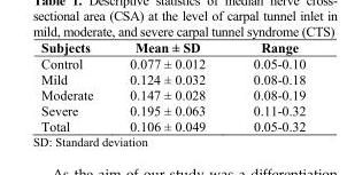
<table><thead><tr><td>Subjects</td><td>Mean ± SD</td><td>Range</td></tr></thead><tbody><tr><td>Control</td><td>0.077 ± 0.012</td><td>0.05-0.10</td></tr><tr><td>Mild</td><td>0.124 ± 0.032</td><td>0.08-0.18</td></tr><tr><td>Moderate</td><td>0.147 ± 0.028</td><td>0.08-0.19</td></tr><tr><td>Severe</td><td>0.195 ± 0.063</td><td>0.11-0.32</td></tr><tr><td>Total</td><td>0.106 ± 0.049</td><td>0.05-0.32</td></tr></tbody></table>